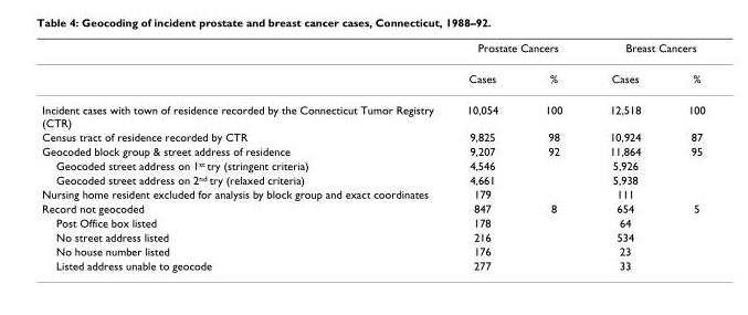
<table><thead><tr><td rowspan="2"></td><td colspan="2">Prostate Cancers</td><td colspan="2">Breast Cancers</td></tr><tr><td>Cases</td><td>%</td><td>Cases</td><td>%</td></tr></thead><tbody><tr><td>Incident cases with town of residence recorded by the Connecticut Tumor Registry (CTR)</td><td>10,054</td><td>100</td><td>12,518</td><td>100</td></tr><tr><td>Census tract of residence recorded by CTR</td><td>9,825</td><td>98</td><td>10,924</td><td>87</td></tr><tr><td>Geocoded block group &amp; street address of residence</td><td>9,207</td><td>92</td><td>11,864</td><td>95</td></tr><tr><td>Geocoded street address on 1<sup>st</sup> try (stringent criteria)</td><td>4,546</td><td></td><td>5,926</td><td></td></tr><tr><td>Geocoded street address on 2<sup>nd</sup> try (relaxed criteria)</td><td>4,661</td><td></td><td>5,938</td><td></td></tr><tr><td>Nursing home resident excluded for analysis by block group and exact coordinates</td><td>179</td><td></td><td>111</td><td></td></tr><tr><td>Record not geocoded</td><td>847</td><td>8</td><td>654</td><td>5</td></tr><tr><td>Post Office box listed</td><td>178</td><td></td><td>64</td><td></td></tr><tr><td>No street address listed</td><td>216</td><td></td><td>534</td><td></td></tr><tr><td>No house number listed</td><td>176</td><td></td><td>23</td><td></td></tr><tr><td>Listed address unable to geocode</td><td>277</td><td></td><td>33</td><td></td></tr></tbody></table>